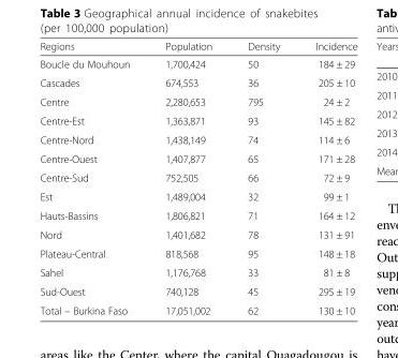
<table><thead><tr><td>Regions</td><td>Population</td><td>Density</td><td>Incidence</td></tr></thead><tbody><tr><td>Boucle du Mouhoun</td><td>1,700,424</td><td>50</td><td>184 ± 29</td></tr><tr><td>Cascades</td><td>674,553</td><td>36</td><td>205 ± 10</td></tr><tr><td>Centre</td><td>2,280,653</td><td>795</td><td>24 ± 2</td></tr><tr><td>Centre-Est</td><td>1,363,871</td><td>93</td><td>145 ± 82</td></tr><tr><td>Centre-Nord</td><td>1,438,149</td><td>74</td><td>114 ± 6</td></tr><tr><td>Centre-Ouest</td><td>1,407,877</td><td>65</td><td>171 ± 28</td></tr><tr><td>Centre-Sud</td><td>752,505</td><td>66</td><td>72 ± 9</td></tr><tr><td>Est</td><td>1,489,004</td><td>32</td><td>99 ± 1</td></tr><tr><td>Hauts-Bassins</td><td>1,806,821</td><td>71</td><td>164 ± 12</td></tr><tr><td>Nord</td><td>1,401,682</td><td>78</td><td>131 ± 91</td></tr><tr><td>Plateau-Central</td><td>818,568</td><td>95</td><td>148 ± 18</td></tr><tr><td>Sahel</td><td>1,176,768</td><td>33</td><td>81 ± 8</td></tr><tr><td>Sud-Ouest</td><td>740,128</td><td>45</td><td>295 ± 19</td></tr><tr><td>Total – Burkina Faso</td><td>17,051,002</td><td>62</td><td>130 ± 10</td></tr></tbody></table>